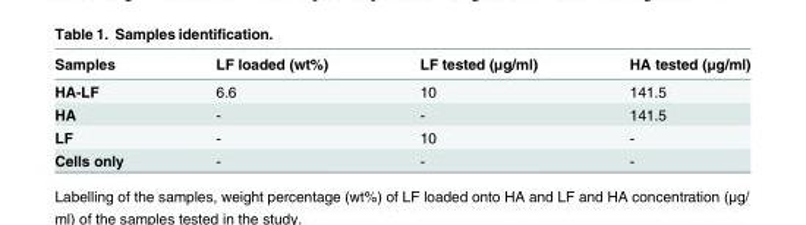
<table><thead><tr><td>Samples</td><td>LF loaded (wt%)</td><td>LF tested (μg/ml)</td><td>HA tested (μg/ml)</td></tr></thead><tbody><tr><td>HA-LF</td><td>6.6</td><td>10</td><td>141.5</td></tr><tr><td>HA</td><td>-</td><td>-</td><td>141.5</td></tr><tr><td>LF</td><td>-</td><td>10</td><td>-</td></tr><tr><td>Cells only</td><td>-</td><td>-</td><td>-</td></tr></tbody></table>